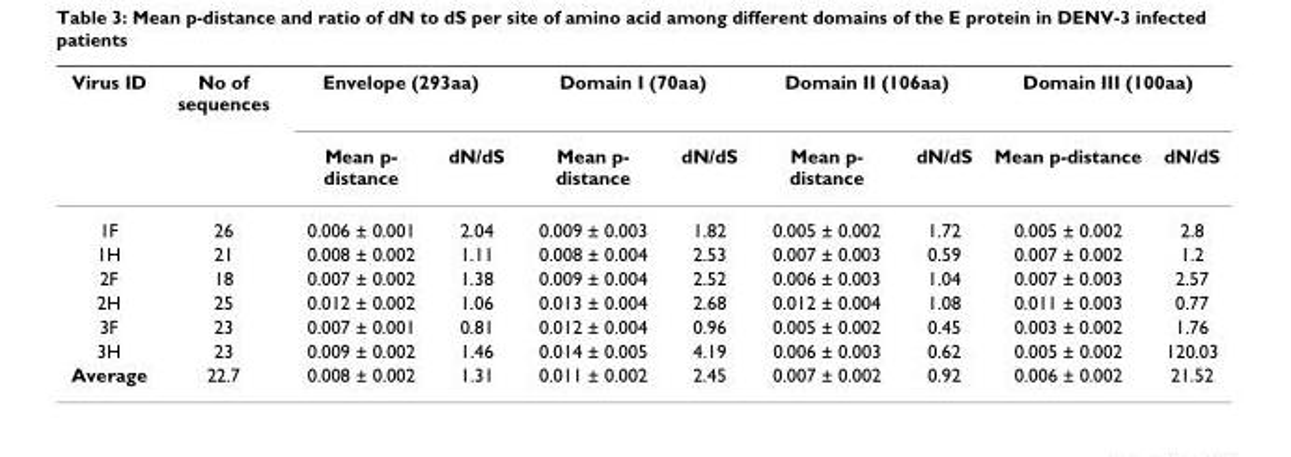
<table><thead><tr><td rowspan="2">Virus ID</td><td rowspan="2">No of sequences</td><td colspan="2">Envelope (293aa)</td><td colspan="2">Domain I (70aa)</td><td colspan="2">Domain II (106aa)</td><td colspan="2">Domain III (100aa)</td></tr><tr><td>Mean p- distance</td><td>dN/dS</td><td>Mean p- distance</td><td>dN/dS</td><td>Mean p- distance</td><td>dN/dS</td><td>Mean p-distance</td><td>dN/dS</td></tr></thead><tbody><tr><td>1F</td><td>26</td><td>0.006 ± 0.001</td><td>2.04</td><td>0.009 ± 0.003</td><td>1.82</td><td>0.005 ± 0.002</td><td>1.72</td><td>0.005 ± 0.002</td><td>2.8</td></tr><tr><td>1H</td><td>21</td><td>0.008 ± 0.002</td><td>1.11</td><td>0.008 ± 0.004</td><td>2.53</td><td>0.007 ± 0.003</td><td>0.59</td><td>0.007 ± 0.002</td><td>1.2</td></tr><tr><td>2F</td><td>18</td><td>0.007 ± 0.002</td><td>1.38</td><td>0.009 ± 0.004</td><td>2.52</td><td>0.006 ± 0.003</td><td>1.04</td><td>0.007 ± 0.003</td><td>2.57</td></tr><tr><td>2H</td><td>25</td><td>0.012 ± 0.002</td><td>1.06</td><td>0.013 ± 0.004</td><td>2.68</td><td>0.012 ± 0.004</td><td>1.08</td><td>0.011 ± 0.003</td><td>0.77</td></tr><tr><td>3F</td><td>23</td><td>0.007 ± 0.001</td><td>0.81</td><td>0.012 ± 0.004</td><td>0.96</td><td>0.005 ± 0.002</td><td>0.45</td><td>0.003 ± 0.002</td><td>1.76</td></tr><tr><td>3H</td><td>23</td><td>0.009 ± 0.002</td><td>1.46</td><td>0.014 ± 0.005</td><td>4.19</td><td>0.006 ± 0.003</td><td>0.62</td><td>0.005 ± 0.002</td><td>120.03</td></tr><tr><td>Average</td><td>22.7</td><td>0.008 ± 0.002</td><td>1.31</td><td>0.011 ± 0.002</td><td>2.45</td><td>0.007 ± 0.002</td><td>0.92</td><td>0.006 ± 0.002</td><td>21.52</td></tr></tbody></table>